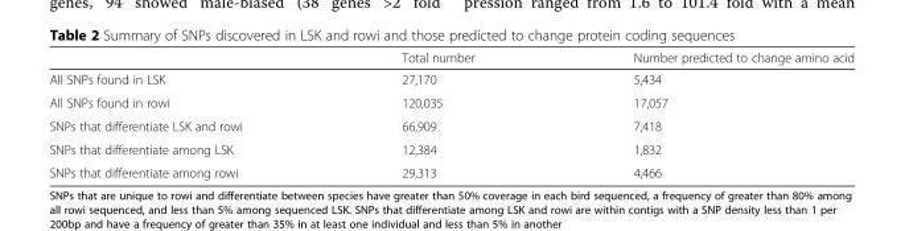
<table><thead><tr><td></td><td>Total number</td><td>Number predicted to change amino acid</td></tr></thead><tbody><tr><td>All SNPs found in LSK</td><td>27,170</td><td>5,434</td></tr><tr><td>All SNPs found in rowi</td><td>120,035</td><td>17,057</td></tr><tr><td>SNPs that differentiate LSK and rowi</td><td>66,909</td><td>7,418</td></tr><tr><td>SNPs that differentiate among LSK</td><td>12,384</td><td>1,832</td></tr><tr><td>SNPs that differentiate among rowi</td><td>29,313</td><td>4,466</td></tr></tbody></table>